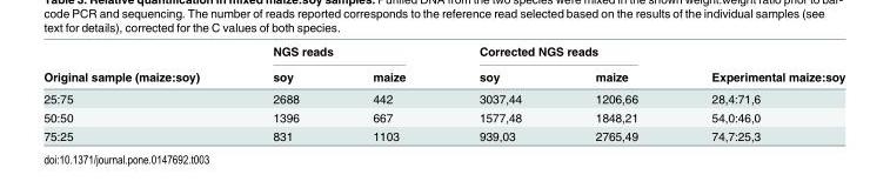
<table><thead><tr><td rowspan="2">Original sample (maize:soy)</td><td colspan="2">NGS reads</td><td colspan="2">Corrected NGS reads</td><td rowspan="2">Experimental maize:soy</td></tr><tr><td>soy</td><td>maize</td><td>soy</td><td>maize</td></tr></thead><tbody><tr><td>25:75</td><td>2688</td><td>442</td><td>3037,44</td><td>1206,66</td><td>28,4:71,6</td></tr><tr><td>50:50</td><td>1396</td><td>667</td><td>1577,48</td><td>1848,21</td><td>54,0:46,0</td></tr><tr><td>75:25</td><td>831</td><td>1103</td><td>939,03</td><td>2765,49</td><td>74,7:25,3</td></tr></tbody></table>